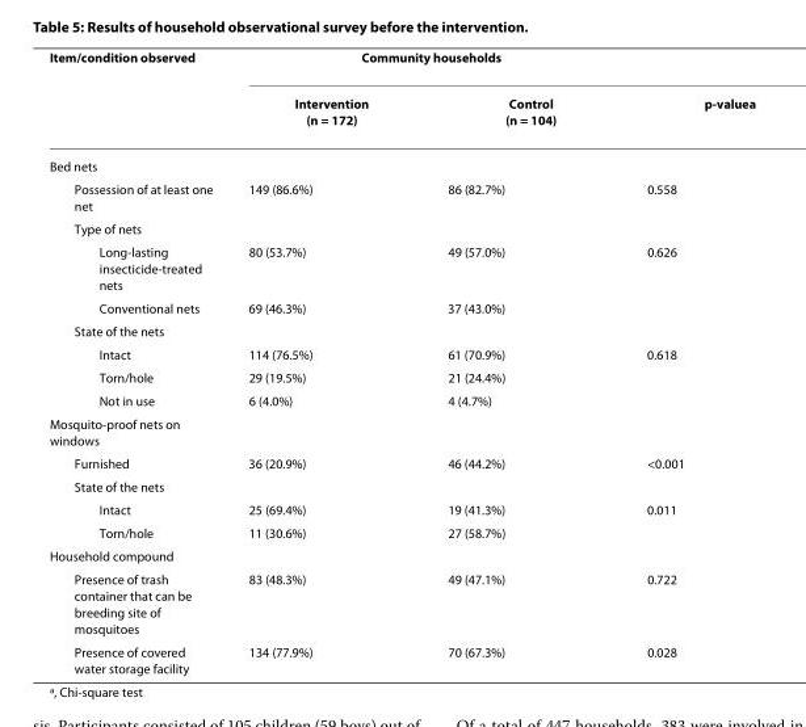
<table><thead><tr><td rowspan="2">Item/condition observed</td><td colspan="2">Community households</td><td rowspan="2">p-value<sup>a</sup></td></tr><tr><td>Intervention (n = 172)</td><td>Control (n = 104)</td></tr></thead><tbody><tr><td colspan="4">Bed nets</td></tr><tr><td>Possession of at least one net</td><td>149 (86.6%)</td><td>86 (82.7%)</td><td>0.558</td></tr><tr><td colspan="4">Type of nets</td></tr><tr><td>Long-lasting insecticide-treated nets</td><td>80 (53.7%)</td><td>49 (57.0%)</td><td>0.626</td></tr><tr><td>Conventional nets</td><td>69 (46.3%)</td><td>37 (43.0%)</td><td></td></tr><tr><td colspan="4">State of the nets</td></tr><tr><td>Intact</td><td>114 (76.5%)</td><td>61 (70.9%)</td><td>0.618</td></tr><tr><td>Torn/hole</td><td>29 (19.5%)</td><td>21 (24.4%)</td><td></td></tr><tr><td>Not in use</td><td>6 (4.0%)</td><td>4 (4.7%)</td><td></td></tr><tr><td colspan="4">Mosquito-proof nets on windows</td></tr><tr><td>Furnished</td><td>36 (20.9%)</td><td>46 (44.2%)</td><td>&lt;0.001</td></tr><tr><td colspan="4">State of the nets</td></tr><tr><td>Intact</td><td>25 (69.4%)</td><td>19 (41.3%)</td><td>0.011</td></tr><tr><td>Torn/hole</td><td>11 (30.6%)</td><td>27 (58.7%)</td><td></td></tr><tr><td colspan="4">Household compound</td></tr><tr><td>Presence of trash container that can be breeding site of mosquitoes</td><td>83 (48.3%)</td><td>49 (47.1%)</td><td>0.722</td></tr><tr><td>Presence of covered water storage facility</td><td>134 (77.9%)</td><td>70 (67.3%)</td><td>0.028</td></tr></tbody></table>